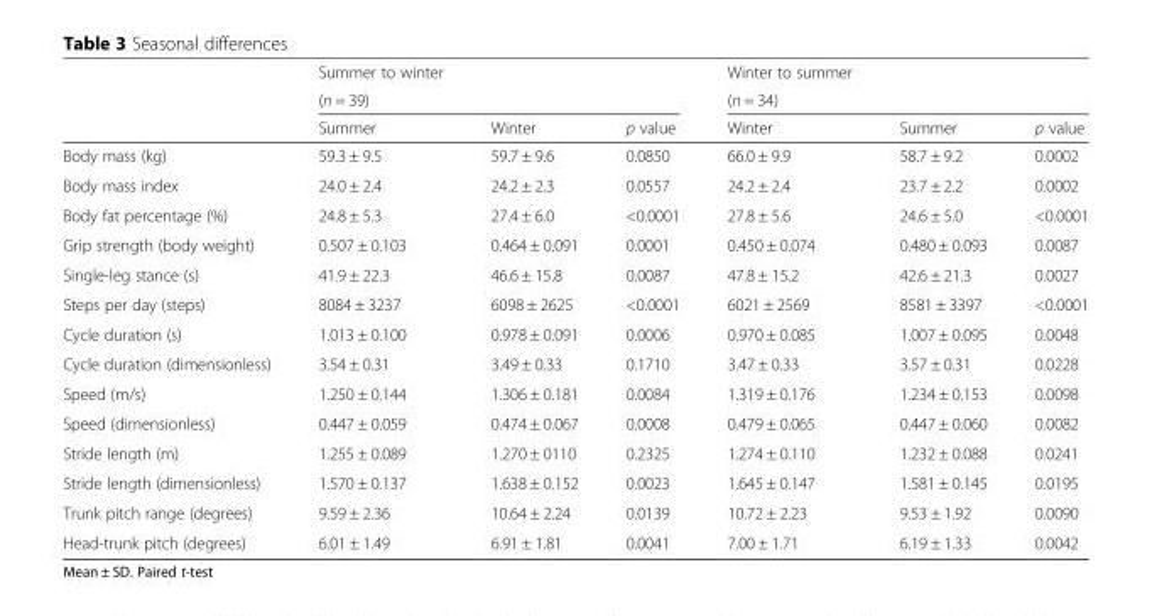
<table><thead><tr><td rowspan="3"></td><td>Summer to winter</td><td></td><td></td><td>Winter to summer</td><td></td><td></td></tr><tr><td colspan="3">(n = 39)</td><td colspan="3">(n = 34)</td></tr><tr><td>Summer</td><td>Winter</td><td>p value</td><td>Winter</td><td>Summer</td><td>p value</td></tr></thead><tbody><tr><td>Body mass (kg)</td><td>59.3 ± 9.5</td><td>59.7 ± 9.6</td><td>0.0850</td><td>66.0 ± 9.9</td><td>58.7 ± 9.2</td><td>0.0002</td></tr><tr><td>Body mass index</td><td>24.0 ± 2.4</td><td>24.2 ± 2.3</td><td>0.0557</td><td>24.2 ± 2.4</td><td>23.7 ± 2.2</td><td>0.0002</td></tr><tr><td>Body fat percentage (%)</td><td>24.8 ± 5.3</td><td>27.4 ± 6.0</td><td>&lt;0.0001</td><td>27.8 ± 5.6</td><td>24.6 ± 5.0</td><td>&lt;0.0001</td></tr><tr><td>Grip strength (body weight)</td><td>0.507 ± 0.103</td><td>0.464 ± 0.091</td><td>0.0001</td><td>0.450 ± 0.074</td><td>0.480 ± 0.093</td><td>0.0087</td></tr><tr><td>Single-leg stance (s)</td><td>41.9 ± 22.3</td><td>46.6 ± 15.8</td><td>0.0087</td><td>47.8 ± 15.2</td><td>42.6 ± 21.3</td><td>0.0027</td></tr><tr><td>Steps per day (steps)</td><td>8084 ± 3237</td><td>6098 ± 2625</td><td>&lt;0.0001</td><td>6021 ± 2569</td><td>8581 ± 3397</td><td>&lt;0.0001</td></tr><tr><td>Cycle duration (s)</td><td>1.013 ± 0.100</td><td>0.978 ± 0.091</td><td>0.0006</td><td>0.970 ± 0.085</td><td>1.007 ± 0.095</td><td>0.0048</td></tr><tr><td>Cycle duration (dimensionless)</td><td>3.54 ± 0.31</td><td>3.49 ± 0.33</td><td>0.1710</td><td>3.47 ± 0.33</td><td>3.57 ± 0.31</td><td>0.0228</td></tr><tr><td>Speed (m/s)</td><td>1.250 ± 0.144</td><td>1.306 ± 0.181</td><td>0.0084</td><td>1.319 ± 0.176</td><td>1.234 ± 0.153</td><td>0.0098</td></tr><tr><td>Speed (dimensionless)</td><td>0.447 ± 0.059</td><td>0.474 ± 0.067</td><td>0.0008</td><td>0.479 ± 0.065</td><td>0.447 ± 0.060</td><td>0.0082</td></tr><tr><td>Stride length (m)</td><td>1.255 ± 0.089</td><td>1.270 ± 0110</td><td>0.2325</td><td>1.274 ± 0.110</td><td>1.232 ± 0.088</td><td>0.0241</td></tr><tr><td>Stride length (dimensionless)</td><td>1.570 ± 0.137</td><td>1.638 ± 0.152</td><td>0.0023</td><td>1.645 ± 0.147</td><td>1.581 ± 0.145</td><td>0.0195</td></tr><tr><td>Trunk pitch range (degrees)</td><td>9.59 ± 2.36</td><td>10.64 ± 2.24</td><td>0.0139</td><td>10.72 ± 2.23</td><td>9.53 ± 1.92</td><td>0.0090</td></tr><tr><td>Head-trunk pitch (degrees)</td><td>6.01 ± 1.49</td><td>6.91 ± 1.81</td><td>0.0041</td><td>7.00 ± 1.71</td><td>6.19 ± 1.33</td><td>0.0042</td></tr></tbody></table>